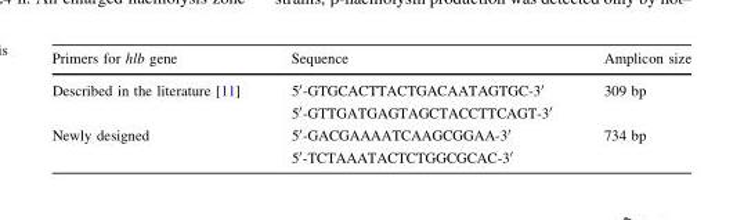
<table><thead><tr><td>Primers for hlb gene</td><td>Sequence</td><td>Amplicon size</td></tr></thead><tbody><tr><td rowspan="2">Described in the literature [11]</td><td>5′-GTGCACTTACTGACAATAGTGC-3′</td><td rowspan="2">309 bp</td></tr><tr><td>5′-GTTGATGAGTAGCTACCTTCAGT-3′</td></tr><tr><td rowspan="2">Newly designed</td><td>5′-GACGAAAATCAAGCGGAA-3′</td><td rowspan="2">734 bp</td></tr><tr><td>5′-TCTAAATACTCTGGCGCAC-3′</td></tr></tbody></table>